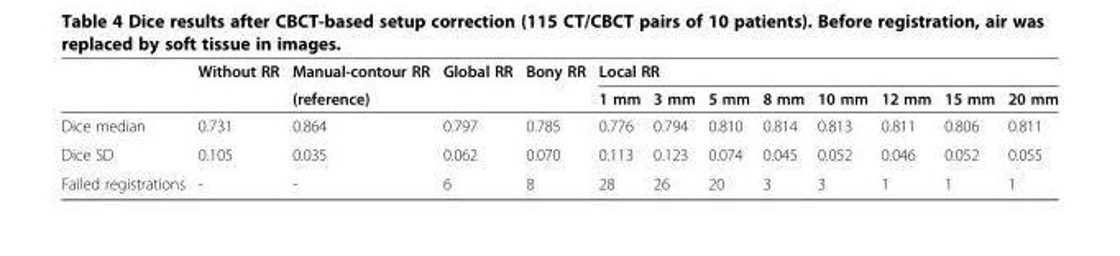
<table><thead><tr><td rowspan="2"></td><td rowspan="2">Without RR</td><td rowspan="2">Manual-contour RR (reference)</td><td rowspan="2">Global RR</td><td rowspan="2">Bony RR</td><td colspan="8">Local RR</td></tr><tr><td>1 mm</td><td>3 mm</td><td>5 mm</td><td>8 mm</td><td>10 mm</td><td>12 mm</td><td>15 mm</td><td>20 mm</td></tr></thead><tbody><tr><td>Dice median</td><td>0.731</td><td>0.864</td><td>0.797</td><td>0.785</td><td>0.776</td><td>0.794</td><td>0.810</td><td>0.814</td><td>0.813</td><td>0.811</td><td>0.806</td><td>0.811</td></tr><tr><td>Dice SD</td><td>0.105</td><td>0.035</td><td>0.062</td><td>0.070</td><td>0.113</td><td>0.123</td><td>0.074</td><td>0.045</td><td>0.052</td><td>0.046</td><td>0.052</td><td>0.055</td></tr><tr><td>Failed registrations</td><td>-</td><td>-</td><td>6</td><td>8</td><td>28</td><td>26</td><td>20</td><td>3</td><td>3</td><td>1</td><td>1</td><td>1</td></tr></tbody></table>